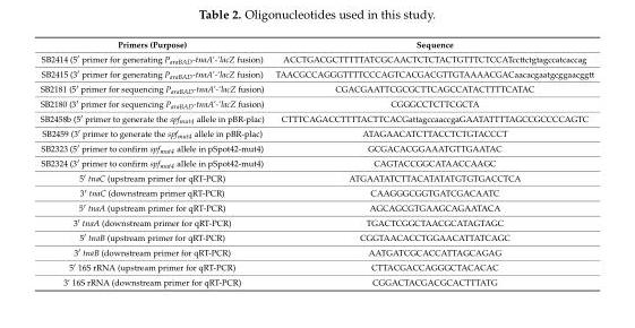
<table><thead><tr><td>Primers (Purpose)</td><td>Sequence</td></tr></thead><tbody><tr><td>SB2414 (5′ primer for generating P<sub>araBAD</sub>-tnaA’-‘lacZ fusion)</td><td>ACCTGACGCTTTTTATCGCAACTCTCTACTGTTTCTCCATccttctgtagccatcaccag</td></tr><tr><td>SB2415 (3′ primer for generating P<sub>araBAD</sub>-tnaA’-‘lacZ fusion)</td><td>TAACGCCAGGGTTTTCCCAGTCACGACGTTGTAAAACGACaacacgaatgcggaacggtt</td></tr><tr><td>SB2181 (5′ primer for sequencing P<sub>araBAD</sub>-tnaA’-‘lacZ fusion)</td><td>CGACGAATTCGCGCTTCAGCCATACTTTTCATAC</td></tr><tr><td>SB2180 (3′ primer for sequencing P<sub>araBAD</sub>-tnaA’-‘lacZ fusion)</td><td>CGGGCCTCTTCGCTA</td></tr><tr><td>SB2458b (5′ primer to generate the spf<sub>mut4</sub> allele in pBR-plac)</td><td>CTTTCAGACCTTTTACTTCACGattagccaaccgaGAATATTTTAGCCGCCCCAGTC</td></tr><tr><td>SB2459 (3′ primer to generate the spf<sub>mut4</sub> allele in pBR-plac)</td><td>ATAGAACATCTTACCTCTGTACCCT</td></tr><tr><td>SB2323 (5′ primer to confirm spf<sub>mut4</sub> allele in pSpot42-mut4)</td><td>GCGACACGGAAATGTTGAATAC</td></tr><tr><td>SB2324 (3′ primer to confirm spf<sub>mut4</sub> allele in pSpot42-mut4)</td><td>CAGTACCGGCATAACCAAGC</td></tr><tr><td>5′ tnaC (upstream primer for qRT-PCR)</td><td>ATGAATATCTTACATATATGTGTGACCTCA</td></tr><tr><td>3′ tnaC (downstream primer qRT-PCR)</td><td>CAAGGGCGGTGATCGACAATC</td></tr><tr><td>5′ tnaA (upstream primer for qRT-PCR)</td><td>AGCAGCGTGAAGCAGAATACA</td></tr><tr><td>3′ tnaA (downstream primer for qRT-PCR)</td><td>TGACTCGGCTAACGCATAGTAGC</td></tr><tr><td>5′ tnaB (upstream primer for qRT-PCR)</td><td>CGGTAACACCTGGAACATTATCAGC</td></tr><tr><td>3′ tnaB (downstream primer for qRT-PCR)</td><td>AATGATCGCACCATTAGCAGAG</td></tr><tr><td>5′ 16S rRNA (upstream primer for qRT-PCR)</td><td>CTTACGACCAGGGCTACACAC</td></tr><tr><td>3’ 16S rRNA (downstream primer for qRT-PCR)</td><td>CGGACTACGACGCACTTTATG</td></tr></tbody></table>